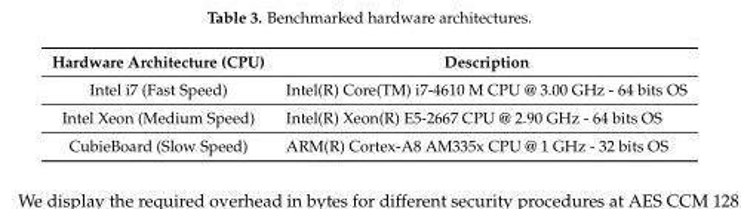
<table><thead><tr><td>Hardware Architecture (CPU)</td><td>Description</td></tr></thead><tbody><tr><td>Intel i7 (Fast Speed)</td><td>Intel(R) Core(TM) i7-4610 M CPU @ 3.00 GHz - 64 bits OS</td></tr><tr><td>Intel Xeon (Medium Speed)</td><td>Intel(R) Xeon(R) E5-2667 CPU @ 2.90 GHz - 64 bits OS</td></tr><tr><td>CubieBoard (Slow Speed)</td><td>ARM(R) Cortex-A8 AM335x CPU @ 1 GHz - 32 bits OS</td></tr></tbody></table>